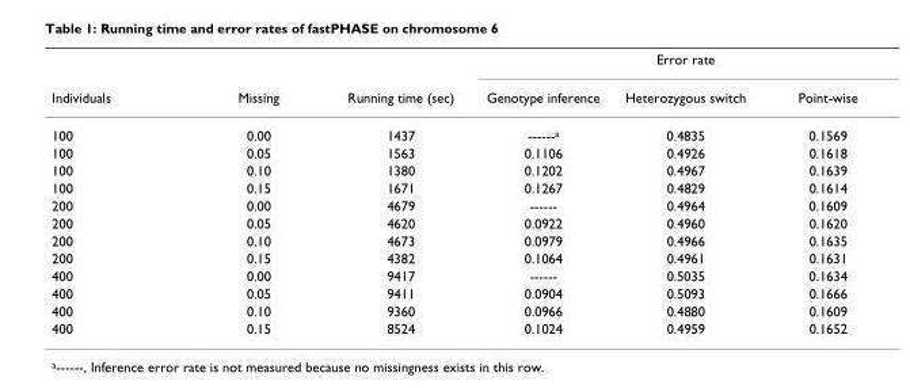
<table><thead><tr><td rowspan="2">Individuals</td><td rowspan="2">Missing</td><td rowspan="2">Running time (sec)</td><td colspan="3">Error rate</td></tr><tr><td>Genotype inference</td><td>Heterozygous switch</td><td>Point-wise</td></tr></thead><tbody><tr><td>100</td><td>0.00</td><td>1437</td><td>------<sup>a</sup></td><td>0.4835</td><td>0.1569</td></tr><tr><td>100</td><td>0.05</td><td>1563</td><td>0.1106</td><td>0.4926</td><td>0.1618</td></tr><tr><td>100</td><td>0.10</td><td>1380</td><td>0.1202</td><td>0.4967</td><td>0.1639</td></tr><tr><td>100</td><td>0.15</td><td>1671</td><td>0.1267</td><td>0.4829</td><td>0.1614</td></tr><tr><td>200</td><td>0.00</td><td>4679</td><td>------</td><td>0.4964</td><td>0.1609</td></tr><tr><td>200</td><td>0.05</td><td>4620</td><td>0.0922</td><td>0.4960</td><td>0.1620</td></tr><tr><td>200</td><td>0.10</td><td>4673</td><td>0.0979</td><td>0.4966</td><td>0.1635</td></tr><tr><td>200</td><td>0.15</td><td>4382</td><td>0.1064</td><td>0.4961</td><td>0.1631</td></tr><tr><td>400</td><td>0.00</td><td>9417</td><td>------</td><td>0.5035</td><td>0.1634</td></tr><tr><td>400</td><td>0.05</td><td>9411</td><td>0.0904</td><td>0.5093</td><td>0.1666</td></tr><tr><td>400</td><td>0.10</td><td>9360</td><td>0.0966</td><td>0.4880</td><td>0.1609</td></tr><tr><td>400</td><td>0.15</td><td>8524</td><td>0.1024</td><td>0.4959</td><td>0.1652</td></tr></tbody></table>